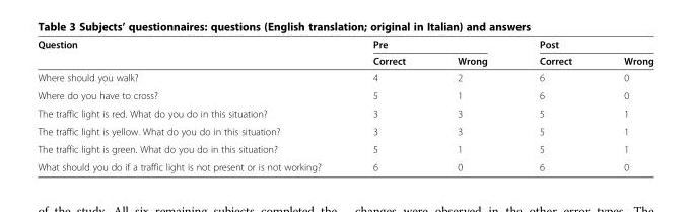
<table><thead><tr><td rowspan="2">Question</td><td colspan="2">Pre</td><td colspan="2">Post</td></tr><tr><td>Correct</td><td>Wrong</td><td>Correct</td><td>Wrong</td></tr></thead><tbody><tr><td>Where should you walk?</td><td>4</td><td>2</td><td>6</td><td>0</td></tr><tr><td>Where do you have to cross?</td><td>5</td><td>1</td><td>6</td><td>0</td></tr><tr><td>The traffic light is red. What do you do in this situation?</td><td>3</td><td>3</td><td>5</td><td>1</td></tr><tr><td>The traffic light is yellow. What do you do in this situation?</td><td>3</td><td>3</td><td>5</td><td>1</td></tr><tr><td>The traffic light is green. What do you do in this situation?</td><td>5</td><td>1</td><td>5</td><td>1</td></tr><tr><td>What should you do if a traffic light is not present or is not working?</td><td>6</td><td>0</td><td>6</td><td>0</td></tr></tbody></table>